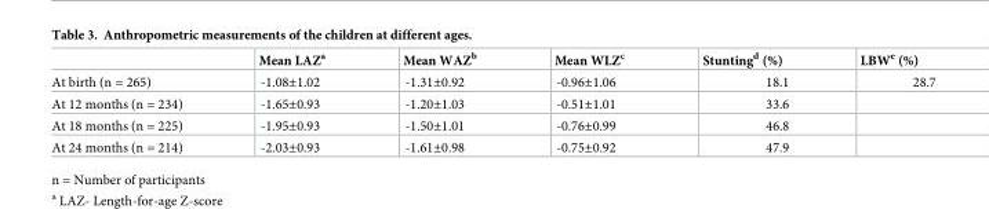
<table><thead><tr><td></td><td>Mean LAZ<sup>a</sup></td><td>Mean WAZ<sup>b</sup></td><td>Mean WLZ<sup>c</sup></td><td>Stunting<sup>d</sup> (%)</td><td>LBW<sup>e</sup> (%)</td></tr></thead><tbody><tr><td>At birth (n = 265)</td><td>-1.08±1.02</td><td>-1.31±0.92</td><td>-0.96±1.06</td><td>18.1</td><td>28.7</td></tr><tr><td>At 12 months (n = 234)</td><td>-1.65±0.93</td><td>-1.20±1.03</td><td>-0.51±1.01</td><td>33.6</td><td></td></tr><tr><td>At 18 months (n = 225)</td><td>-1.95±0.93</td><td>-1.50±1.01</td><td>-0.76±0.99</td><td>46.8</td><td></td></tr><tr><td>At 24 months (n = 214)</td><td>-2.03±0.93</td><td>-1.61±0.98</td><td>-0.75±0.92</td><td>47.9</td><td></td></tr></tbody></table>